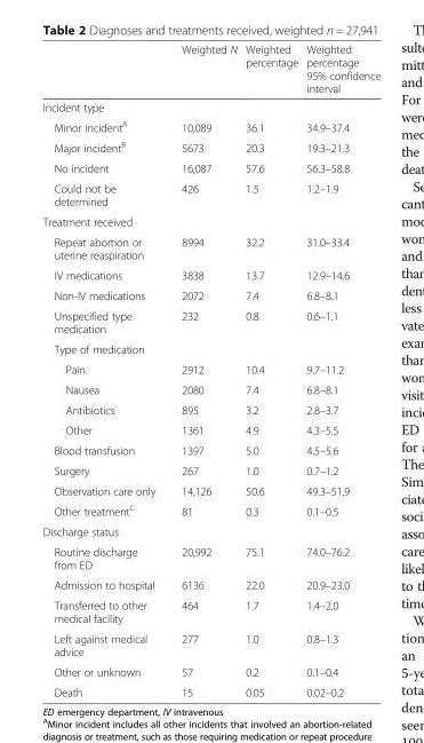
<table><thead><tr><td></td><td>Weighted N</td><td>Weighted percentage</td><td>Weighted percentage 95% confidence interval</td></tr></thead><tbody><tr><td colspan="4">Incident type</td></tr><tr><td>Minor incident<sup>A</sup></td><td>10,089</td><td>36.1</td><td>34.9–37.4</td></tr><tr><td>Major incident<sup>B</sup></td><td>5673</td><td>20.3</td><td>19.3–21.3</td></tr><tr><td>No incident</td><td>16,087</td><td>57.6</td><td>56.3–58.8</td></tr><tr><td>Could not be determined</td><td>426</td><td>1.5</td><td>1.2–1.9</td></tr><tr><td colspan="4">Treatment received</td></tr><tr><td>Repeat abortion or uterine reaspiration</td><td>8994</td><td>32.2</td><td>31.0–33.4</td></tr><tr><td>IV medications</td><td>3838</td><td>13.7</td><td>12.9–14.6</td></tr><tr><td>Non-IV medications</td><td>2072</td><td>7.4</td><td>6.8–8.1</td></tr><tr><td>Unspecified type medication</td><td>232</td><td>0.8</td><td>0.6–1.1</td></tr><tr><td colspan="4">Type of medication</td></tr><tr><td>Pain</td><td>2912</td><td>10.4</td><td>9.7–11.2</td></tr><tr><td>Nausea</td><td>2080</td><td>7.4</td><td>6.8–8.1</td></tr><tr><td>Antibiotics</td><td>895</td><td>3.2</td><td>2.8–3.7</td></tr><tr><td>Other</td><td>1361</td><td>4.9</td><td>4.3–5.5</td></tr><tr><td>Blood transfusion</td><td>1397</td><td>5.0</td><td>4.5–5.6</td></tr><tr><td>Surgery</td><td>267</td><td>1.0</td><td>0.7–1.2</td></tr><tr><td>Observation care only</td><td>14,126</td><td>50.6</td><td>49.3–51.9</td></tr><tr><td>Other treatment<sup>C</sup></td><td>81</td><td>0.3</td><td>0.1–0.5</td></tr><tr><td colspan="4">Discharge status</td></tr><tr><td>Routine discharge from ED</td><td>20,992</td><td>75.1</td><td>74.0–76.2</td></tr><tr><td>Admission to hospital</td><td>6136</td><td>22.0</td><td>20.9–23.0</td></tr><tr><td>Transferred to other medical facility</td><td>464</td><td>1.7</td><td>1.4–2.0</td></tr><tr><td>Left against medical advice</td><td>277</td><td>1.0</td><td>0.8–1.3</td></tr><tr><td>Other or unknown</td><td>57</td><td>0.2</td><td>0.1–0.4</td></tr><tr><td>Death</td><td>15</td><td>0.05</td><td>0.02–0.2</td></tr></tbody></table>